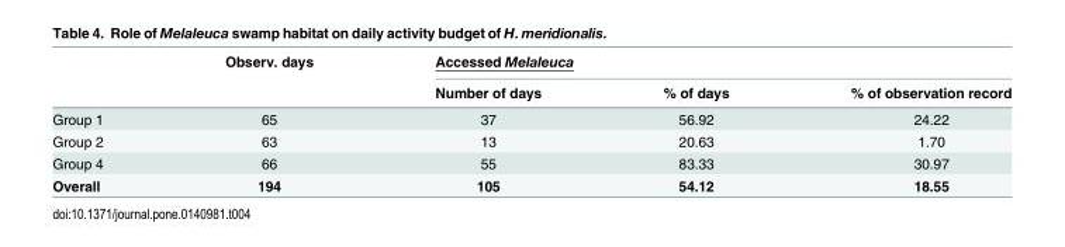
<table><thead><tr><td rowspan="2"></td><td rowspan="2">Observ. days</td><td colspan="3">Accessed Melaleuca</td></tr><tr><td>Number of days</td><td>% of days</td><td>% of observation record</td></tr></thead><tbody><tr><td>Group 1</td><td>65</td><td>37</td><td>56.92</td><td>24.22</td></tr><tr><td>Group 2</td><td>63</td><td>13</td><td>20.63</td><td>1.70</td></tr><tr><td>Group 4</td><td>66</td><td>55</td><td>83.33</td><td>30.97</td></tr><tr><td>Overall</td><td>194</td><td>105</td><td>54.12</td><td>18.55</td></tr></tbody></table>